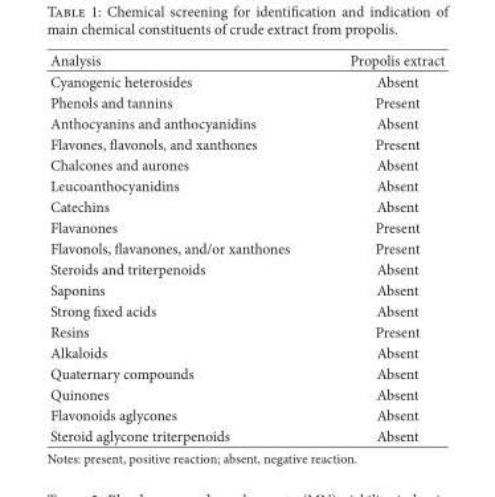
<table><thead><tr><td>Analysis</td><td>Propolis extract</td></tr></thead><tbody><tr><td>Cyanogenic heterosides</td><td>Absent</td></tr><tr><td>Phenols and tannins</td><td>Present</td></tr><tr><td>Anthocyanins and anthocyanidins</td><td>Absent</td></tr><tr><td>Flavones, �avonols, and xanthones</td><td>Present</td></tr><tr><td>Chalcones and aurones</td><td>Absent</td></tr><tr><td>Leucoanthocyanidins</td><td>Absent</td></tr><tr><td>Catechins</td><td>Absent</td></tr><tr><td>Flavanones</td><td>Present</td></tr><tr><td>Flavonols, �avanones, and�or xanthones</td><td>Present</td></tr><tr><td>Steroids and triterpenoids</td><td>Absent</td></tr><tr><td>Saponins</td><td>Absent</td></tr><tr><td>Strong �xed acids</td><td>Absent</td></tr><tr><td>Resins</td><td>Present</td></tr><tr><td>Alkaloids</td><td>Absent</td></tr><tr><td>Quaternary compounds</td><td>Absent</td></tr><tr><td>Quinones</td><td>Absent</td></tr><tr><td>Flavonoids aglycones</td><td>Absent</td></tr><tr><td>Steroid aglycone triterpenoids</td><td>Absent</td></tr></tbody></table>